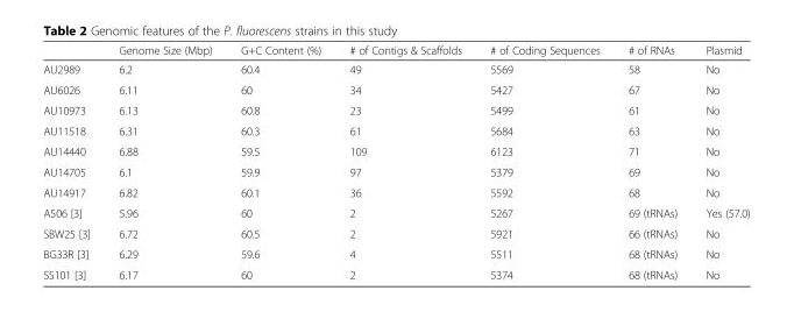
<table><thead><tr><td></td><td>Genome Size (Mbp)</td><td>G+C Content (%)</td><td># of Contigs &amp; Scaffolds</td><td># of Coding Sequences</td><td># of RNAs</td><td>Plasmid</td></tr></thead><tbody><tr><td>AU2989</td><td>6.2</td><td>60.4</td><td>49</td><td>5569</td><td>58</td><td>No</td></tr><tr><td>AU6026</td><td>6.11</td><td>60</td><td>34</td><td>5427</td><td>67</td><td>No</td></tr><tr><td>AU10973</td><td>6.13</td><td>60.8</td><td>23</td><td>5499</td><td>61</td><td>No</td></tr><tr><td>AU11518</td><td>6.31</td><td>60.3</td><td>61</td><td>5684</td><td>63</td><td>No</td></tr><tr><td>AU14440</td><td>6.88</td><td>59.5</td><td>109</td><td>6123</td><td>71</td><td>No</td></tr><tr><td>AU14705</td><td>6.1</td><td>59.9</td><td>97</td><td>5379</td><td>69</td><td>No</td></tr><tr><td>AU14917</td><td>6.82</td><td>60.1</td><td>36</td><td>5592</td><td>68</td><td>No</td></tr><tr><td>A506 [3]</td><td>5.96</td><td>60</td><td>2</td><td>5267</td><td>69 (tRNAs)</td><td>Yes (57.0)</td></tr><tr><td>SBW25 [3]</td><td>6.72</td><td>60.5</td><td>2</td><td>5921</td><td>66 (tRNAs)</td><td>No</td></tr><tr><td>BG33R [3]</td><td>6.29</td><td>59.6</td><td>4</td><td>5511</td><td>68 (tRNAs)</td><td>No</td></tr><tr><td>SS101 [3]</td><td>6.17</td><td>60</td><td>2</td><td>5374</td><td>68 (tRNAs)</td><td>No</td></tr></tbody></table>